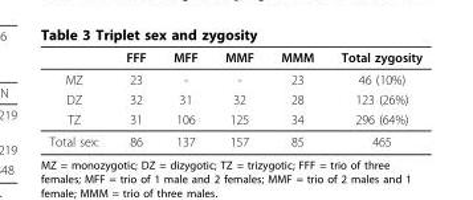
<table><thead><tr><td></td><td>FFF</td><td>MFF</td><td>MMF</td><td>MMM</td><td>Total zygosity</td></tr></thead><tbody><tr><td>MZ</td><td>23</td><td>-</td><td>-</td><td>23</td><td>46 (10%)</td></tr><tr><td>DZ</td><td>32</td><td>31</td><td>32</td><td>28</td><td>123 (26%)</td></tr><tr><td>TZ</td><td>31</td><td>106</td><td>125</td><td>34</td><td>296 (64%)</td></tr><tr><td>Total sex:</td><td>86</td><td>137</td><td>157</td><td>85</td><td>465</td></tr></tbody></table>